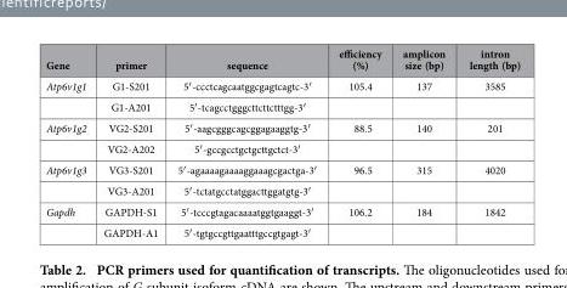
<table><thead><tr><td>Gene</td><td>primer</td><td>sequence</td><td>efficiency (%)</td><td>amplicon size (bp)</td><td>intron length (bp)</td></tr></thead><tbody><tr><td rowspan="2">Atp6v1g1</td><td>G1-S201</td><td>5′ -ccctcagcaatggcgagtcagtc-3′</td><td>105.4</td><td>137</td><td>3585</td></tr><tr><td>G1-A201</td><td>5′ -tcagcctgggcttcttctttgg-3′</td><td></td><td></td><td></td></tr><tr><td rowspan="2">Atp6v1g2</td><td>VG2-S201</td><td>5′ -aagcgggcagcggagaaggtg-3′</td><td>88.5</td><td>140</td><td>201</td></tr><tr><td>VG2-A202</td><td>5′ -gccgcctgctgcttgctct-3′</td><td></td><td></td><td></td></tr><tr><td rowspan="2">Atp6v1g3</td><td>VG3-S201</td><td>5′ -agaaaagaaaaggaaagcgactga-3′</td><td>96.5</td><td>315</td><td>4020</td></tr><tr><td>VG3-A201</td><td>5′ -tctatgcctatggacttggatgtg-3′</td><td></td><td></td><td></td></tr><tr><td rowspan="2">Gapdh</td><td>GAPDH-S1</td><td>5′ -tcccgtagacaaaatggtgaaggt-3′</td><td>106.2</td><td>184</td><td>1842</td></tr><tr><td>GAPDH-A1</td><td>5′ -tgtgccgttgaatttgccgtgagt-3′</td><td></td><td></td><td></td></tr></tbody></table>